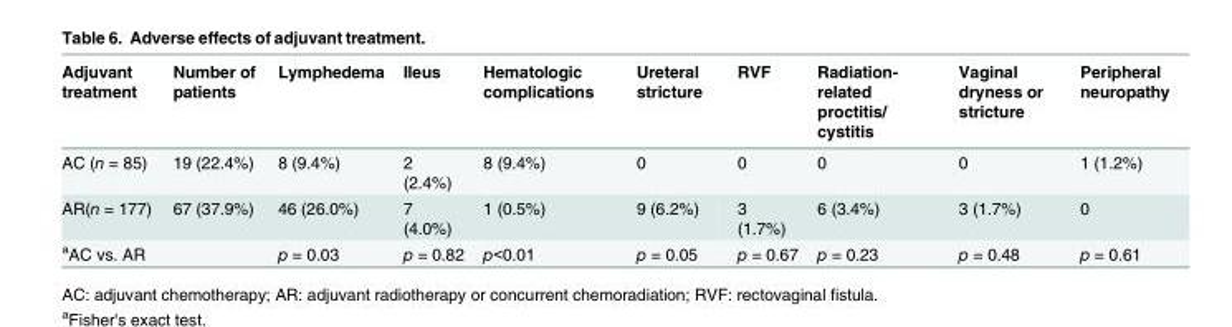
<table><thead><tr><td>Adjuvant treatment</td><td>Number of patients</td><td>Lymphedema</td><td>Ileus</td><td>Hematologic complications</td><td>Ureteral stricture</td><td>RVF</td><td>Radiation- related proctitis/ cystitis</td><td>Vaginal dryness or stricture</td><td>Peripheral neuropathy</td></tr></thead><tbody><tr><td>AC (n = 85)</td><td>19 (22.4%)</td><td>8 (9.4%)</td><td>2 (2.4%)</td><td>8 (9.4%)</td><td>0</td><td>0</td><td>0</td><td>0</td><td>1 (1.2%)</td></tr><tr><td>AR(n = 177)</td><td>67 (37.9%)</td><td>46 (26.0%)</td><td>7 (4.0%)</td><td>1 (0.5%)</td><td>9 (6.2%)</td><td>3 (1.7%)</td><td>6 (3.4%)</td><td>3 (1.7%)</td><td>0</td></tr><tr><td><sup>a</sup>AC vs. AR</td><td></td><td>p = 0.03</td><td>p = 0.82</td><td>p&lt;0.01</td><td>p = 0.05</td><td>p = 0.67</td><td>p = 0.23</td><td>p = 0.48</td><td>p = 0.61</td></tr></tbody></table>